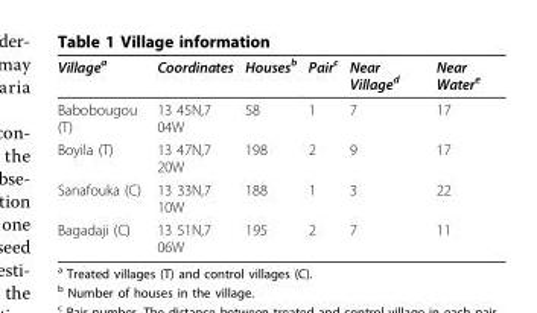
<table><thead><tr><td>Village<sup>a</sup></td><td>Coordinates</td><td>Houses<sup>b</sup></td><td>Pair<sup>c</sup></td><td>Near Village<sup>d</sup></td><td>Near Water<sup>e</sup></td></tr></thead><tbody><tr><td>Babobougou (T)</td><td>13 45N,7 04W</td><td>58</td><td>1</td><td>7</td><td>17</td></tr><tr><td>Boyila (T)</td><td>13 47N,7 20W</td><td>198</td><td>2</td><td>9</td><td>17</td></tr><tr><td>Sanafouka (C)</td><td>13 33N,7 10W</td><td>188</td><td>1</td><td>3</td><td>22</td></tr><tr><td>Bagadaji (C)</td><td>13 51N,7 06W</td><td>195</td><td>2</td><td>7</td><td>11</td></tr></tbody></table>